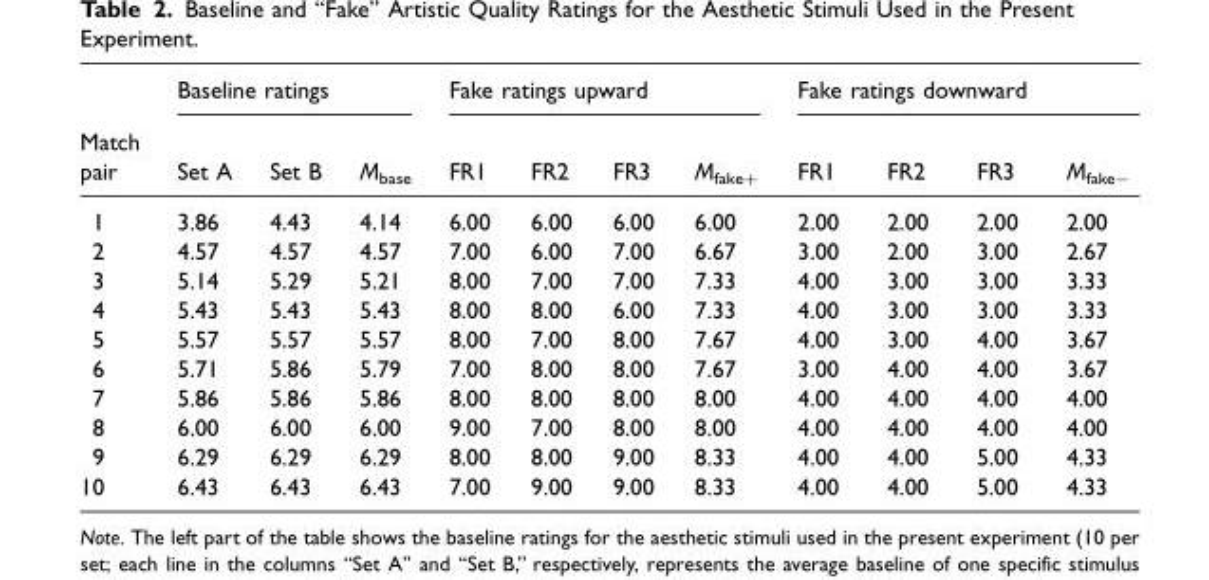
<table><thead><tr><td rowspan="2">Match pair</td><td colspan="3">Baseline ratings</td><td colspan="4">Fake ratings upward</td><td colspan="4">Fake ratings downward</td></tr><tr><td>Set A</td><td>Set B</td><td>M<sub>base</sub></td><td>FR1</td><td>FR2</td><td>FR3</td><td>M<sub>fake+</sub></td><td>FR1</td><td>FR2</td><td>FR3</td><td>M<sub>fake−</sub></td></tr></thead><tbody><tr><td>1</td><td>3.86</td><td>4.43</td><td>4.14</td><td>6.00</td><td>6.00</td><td>6.00</td><td>6.00</td><td>2.00</td><td>2.00</td><td>2.00</td><td>2.00</td></tr><tr><td>2</td><td>4.57</td><td>4.57</td><td>4.57</td><td>7.00</td><td>6.00</td><td>7.00</td><td>6.67</td><td>3.00</td><td>2.00</td><td>3.00</td><td>2.67</td></tr><tr><td>3</td><td>5.14</td><td>5.29</td><td>5.21</td><td>8.00</td><td>7.00</td><td>7.00</td><td>7.33</td><td>4.00</td><td>3.00</td><td>3.00</td><td>3.33</td></tr><tr><td>4</td><td>5.43</td><td>5.43</td><td>5.43</td><td>8.00</td><td>8.00</td><td>6.00</td><td>7.33</td><td>4.00</td><td>3.00</td><td>3.00</td><td>3.33</td></tr><tr><td>5</td><td>5.57</td><td>5.57</td><td>5.57</td><td>8.00</td><td>7.00</td><td>8.00</td><td>7.67</td><td>4.00</td><td>3.00</td><td>4.00</td><td>3.67</td></tr><tr><td>6</td><td>5.71</td><td>5.86</td><td>5.79</td><td>7.00</td><td>8.00</td><td>8.00</td><td>7.67</td><td>3.00</td><td>4.00</td><td>4.00</td><td>3.67</td></tr><tr><td>7</td><td>5.86</td><td>5.86</td><td>5.86</td><td>8.00</td><td>8.00</td><td>8.00</td><td>8.00</td><td>4.00</td><td>4.00</td><td>4.00</td><td>4.00</td></tr><tr><td>8</td><td>6.00</td><td>6.00</td><td>6.00</td><td>9.00</td><td>7.00</td><td>8.00</td><td>8.00</td><td>4.00</td><td>4.00</td><td>4.00</td><td>4.00</td></tr><tr><td>9</td><td>6.29</td><td>6.29</td><td>6.29</td><td>8.00</td><td>8.00</td><td>9.00</td><td>8.33</td><td>4.00</td><td>4.00</td><td>5.00</td><td>4.33</td></tr><tr><td>10</td><td>6.43</td><td>6.43</td><td>6.43</td><td>7.00</td><td>9.00</td><td>9.00</td><td>8.33</td><td>4.00</td><td>4.00</td><td>5.00</td><td>4.33</td></tr></tbody></table>